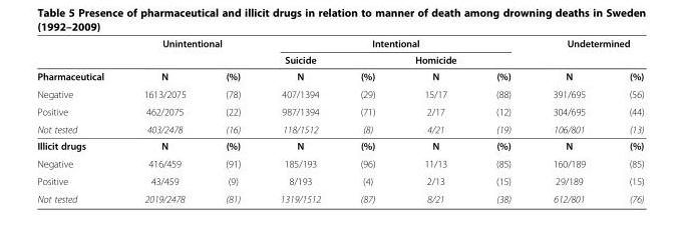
<table><thead><tr><td rowspan="2"></td><td colspan="2">Unintentional</td><td colspan="4">Intentional</td><td colspan="2">Undetermined</td></tr><tr><td></td><td></td><td>Suicide</td><td></td><td>Homicide</td><td></td><td></td><td></td></tr></thead><tbody><tr><td>Pharmaceutical</td><td>N</td><td>(%)</td><td>N</td><td>(%)</td><td>N</td><td>(%)</td><td>N</td><td>(%)</td></tr><tr><td>Negative</td><td>1613/2075</td><td>(78)</td><td>407/1394</td><td>(29)</td><td>15/17</td><td>(88)</td><td>391/695</td><td>(56)</td></tr><tr><td>Positive</td><td>462/2075</td><td>(22)</td><td>987/1394</td><td>(71)</td><td>2/17</td><td>(12)</td><td>304/695</td><td>(44)</td></tr><tr><td>Not tested</td><td>403/2478</td><td>(16)</td><td>118/1512</td><td>(8)</td><td>4/21</td><td>(19)</td><td>106/801</td><td>(13)</td></tr><tr><td>Illicit drugs</td><td>N</td><td>(%)</td><td>N</td><td>(%)</td><td>N</td><td>(%)</td><td>N</td><td>(%)</td></tr><tr><td>Negative</td><td>416/459</td><td>(91)</td><td>185/193</td><td>(96)</td><td>11/13</td><td>(85)</td><td>160/189</td><td>(85)</td></tr><tr><td>Positive</td><td>43/459</td><td>(9)</td><td>8/193</td><td>(4)</td><td>2/13</td><td>(15)</td><td>29/189</td><td>(15)</td></tr><tr><td>Not tested</td><td>2019/2478</td><td>(81)</td><td>1319/1512</td><td>(87)</td><td>8/21</td><td>(38)</td><td>612/801</td><td>(76)</td></tr></tbody></table>